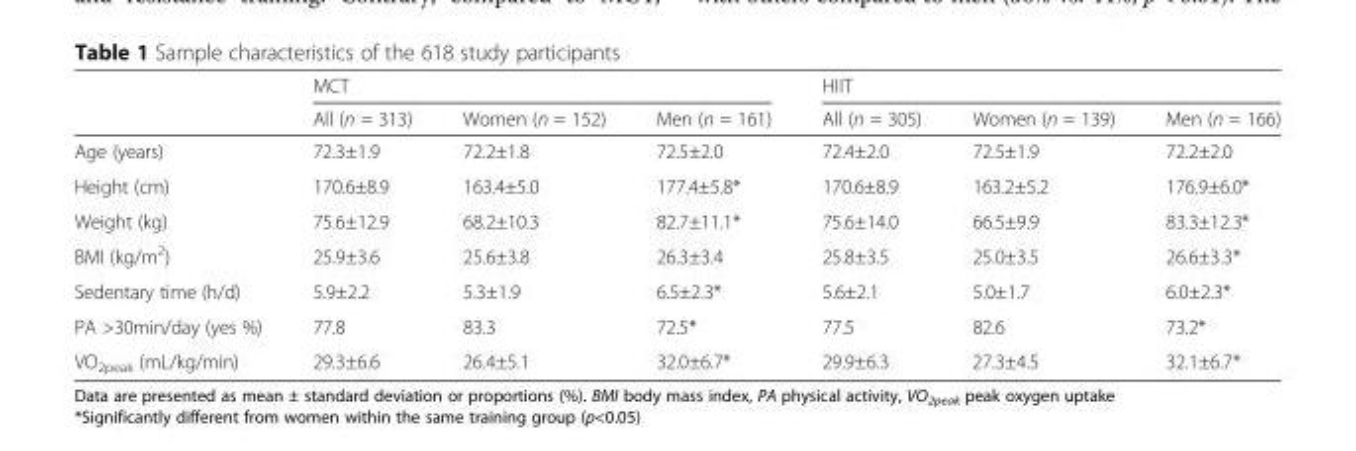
<table><thead><tr><td rowspan="2"></td><td colspan="3">MCT</td><td colspan="3">HIIT</td></tr><tr><td>All (n = 313)</td><td>Women (n = 152)</td><td>Men (n = 161)</td><td>All (n = 305)</td><td>Women (n = 139)</td><td>Men (n = 166)</td></tr></thead><tbody><tr><td>Age (years)</td><td>72.3±1.9</td><td>72.2±1.8</td><td>72.5±2.0</td><td>72.4±2.0</td><td>72.5±1.9</td><td>72.2±2.0</td></tr><tr><td>Height (cm)</td><td>170.6±8.9</td><td>163.4±5.0</td><td>177.4±5.8*</td><td>170.6±8.9</td><td>163.2±5.2</td><td>176.9±6.0*</td></tr><tr><td>Weight (kg)</td><td>75.6±12.9</td><td>68.2±10.3</td><td>82.7±11.1*</td><td>75.6±14.0</td><td>66.5±9.9</td><td>83.3±12.3*</td></tr><tr><td>BMI (kg/m<sup>2</sup>)</td><td>25.9±3.6</td><td>25.6±3.8</td><td>26.3±3.4</td><td>25.8±3.5</td><td>25.0±3.5</td><td>26.6±3.3*</td></tr><tr><td>Sedentary time (h/d)</td><td>5.9±2.2</td><td>5.3±1.9</td><td>6.5±2.3*</td><td>5.6±2.1</td><td>5.0±1.7</td><td>6.0±2.3*</td></tr><tr><td>PA &gt;30min/day (yes %)</td><td>77.8</td><td>83.3</td><td>72.5*</td><td>77.5</td><td>82.6</td><td>73.2*</td></tr><tr><td>VO<sub>2peak</sub> (mL/kg/min)</td><td>29.3±6.6</td><td>26.4±5.1</td><td>32.0±6.7*</td><td>29.9±6.3</td><td>27.3±4.5</td><td>32.1±6.7*</td></tr></tbody></table>